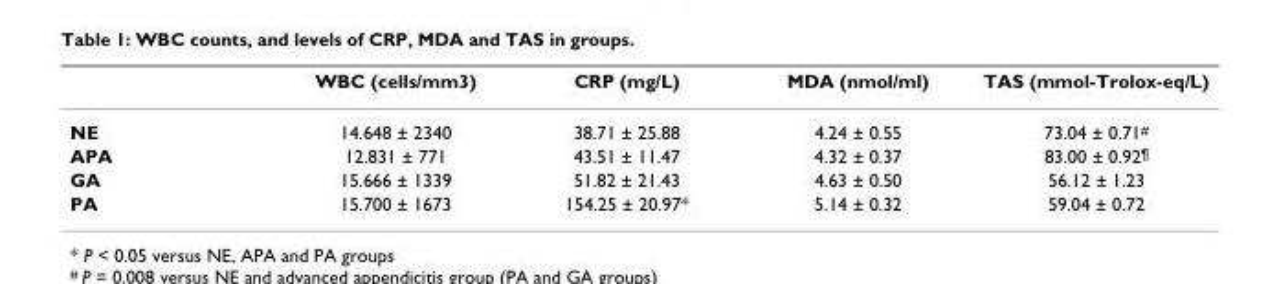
<table><thead><tr><td></td><td>WBC (cells/mm3)</td><td>CRP (mg/L)</td><td>MDA (nmol/ml)</td><td>TAS (mmol-Trolox-eq/L)</td></tr></thead><tbody><tr><td>NE</td><td>14.648 ± 2340</td><td>38.71 ± 25.88</td><td>4.24 ± 0.55</td><td>73.04 ± 0.71<sup>#</sup></td></tr><tr><td>APA</td><td>12.831 ± 771</td><td>43.51 ± 11.47</td><td>4.32 ± 0.37</td><td>83.00 ± 0.92<sup>¶</sup></td></tr><tr><td>GA</td><td>15.666 ± 1339</td><td>51.82 ± 21.43</td><td>4.63 ± 0.50</td><td>56.12 ± 1.23</td></tr><tr><td>PA</td><td>15.700 ± 1673</td><td>154.25 ± 20.97*</td><td>5.14 ± 0.32</td><td>59.04 ± 0.72</td></tr></tbody></table>